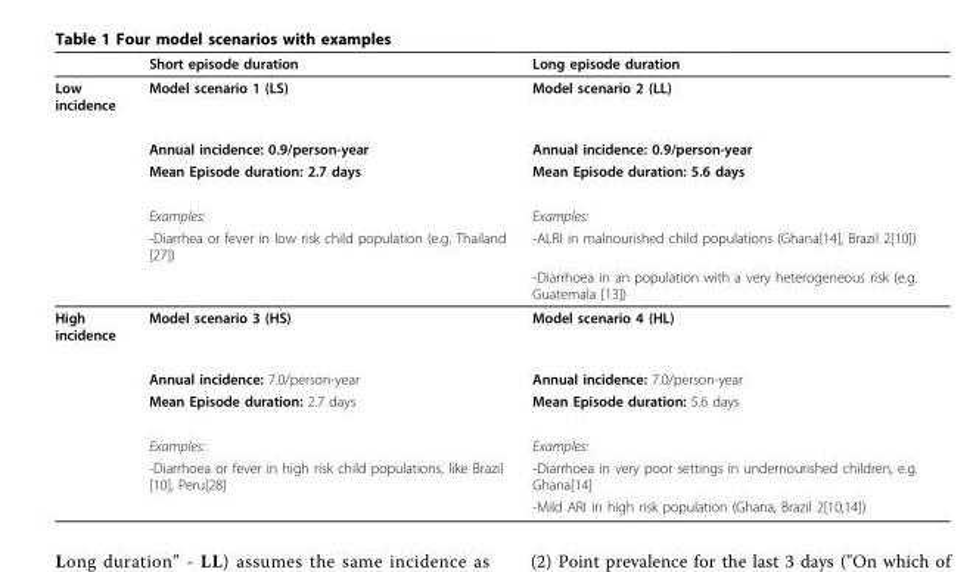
<table><thead><tr><td></td><td>Short episode duration</td><td>Long episode duration</td></tr></thead><tbody><tr><td rowspan="6">Low incidence</td><td>Model scenario 1 (LS)</td><td>Model scenario 2 (LL)</td></tr><tr><td>Annual incidence: 0.9/person-year</td><td>Annual incidence: 0.9/person-year</td></tr><tr><td>Mean Episode duration: 2.7 days</td><td>Mean Episode duration: 5.6 days</td></tr><tr><td>Examples:</td><td>Examples:</td></tr><tr><td>-Diarrhea or fever in low risk child population (e.g. Thailand [27])</td><td>-ALRI in malnourished child populations (Ghana[14], Brazil 2[10])</td></tr><tr><td></td><td>-Diarrhoea in an population with a very heterogeneous risk (e.g. Guatemala [13])</td></tr><tr><td rowspan="6">High incidence</td><td>Model scenario 3 (HS)</td><td>Model scenario 4 (HL)</td></tr><tr><td>Annual incidence: 7.0/person-year</td><td>Annual incidence: 7.0/person-year</td></tr><tr><td>Mean Episode duration: 2.7 days</td><td>Mean Episode duration: 5.6 days</td></tr><tr><td>Examples:</td><td>Examples:</td></tr><tr><td>-Diarrhoea or fever in high risk child populations, like Brazil [10], Peru[28]</td><td>-Diarrhoea in very poor settings in undernourished children, e.g. Ghana[14]</td></tr><tr><td></td><td>-Mild ARI in high risk population (Ghana, Brazil 2[10,14])</td></tr></tbody></table>